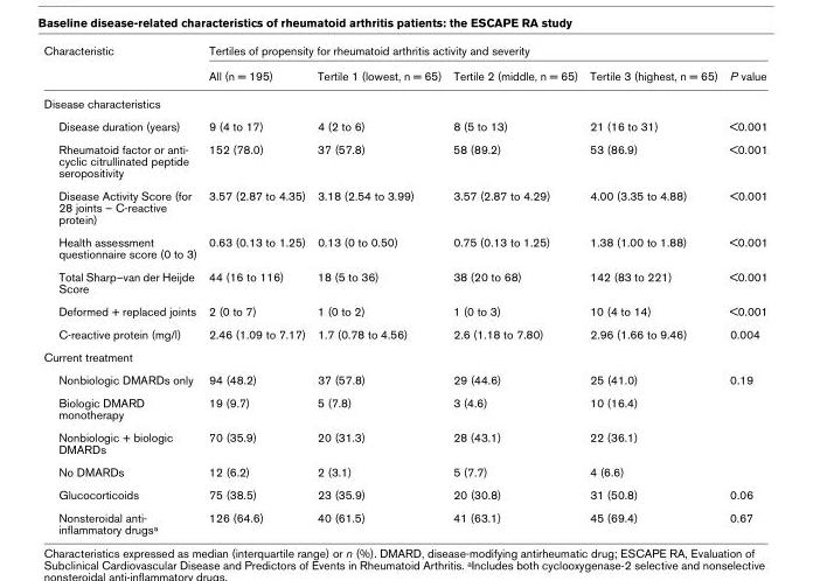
<table><thead><tr><td rowspan="2">Characteristic</td><td colspan="5">Tertiles of propensity for rheumatoid arthritis activity and severity</td></tr><tr><td>All (n = 195)</td><td>Tertile 1 (lowest, n = 65)</td><td>Tertile 2 (middle, n = 65)</td><td>Tertile 3 (highest, n = 65)</td><td>P value</td></tr></thead><tbody><tr><td colspan="6">Disease characteristics</td></tr><tr><td>Disease duration (years)</td><td>9 (4 to 17)</td><td>4 (2 to 6)</td><td>8 (5 to 13)</td><td>21 (16 to 31)</td><td>&lt;0.001</td></tr><tr><td>Rheumatoid factor or anti- cyclic citrullinated peptide seropositivity</td><td>152 (78.0)</td><td>37 (57.8)</td><td>58 (89.2)</td><td>53 (86.9)</td><td>&lt;0.001</td></tr><tr><td>Disease Activity Score (for 28 joints – C-reactive protein)</td><td>3.57 (2.87 to 4.35)</td><td>3.18 (2.54 to 3.99)</td><td>3.57 (2.87 to 4.29)</td><td>4.00 (3.35 to 4.88)</td><td>&lt;0.001</td></tr><tr><td>Health assessment questionnaire score (0 to 3)</td><td>0.63 (0.13 to 1.25)</td><td>0.13 (0 to 0.50)</td><td>0.75 (0.13 to 1.25)</td><td>1.38 (1.00 to 1.88)</td><td>&lt;0.001</td></tr><tr><td>Total Sharp–van der Heijde Score</td><td>44 (16 to 116)</td><td>18 (5 to 36)</td><td>38 (20 to 68)</td><td>142 (83 to 221)</td><td>&lt;0.001</td></tr><tr><td>Deformed + replaced joints</td><td>2 (0 to 7)</td><td>1 (0 to 2)</td><td>1 (0 to 3)</td><td>10 (4 to 14)</td><td>&lt;0.001</td></tr><tr><td>C-reactive protein (mg/l)</td><td>2.46 (1.09 to 7.17)</td><td>1.7 (0.78 to 4.56)</td><td>2.6 (1.18 to 7.80)</td><td>2.96 (1.66 to 9.46)</td><td>0.004</td></tr><tr><td colspan="6">Current treatment</td></tr><tr><td>Nonbiologic DMARDs only</td><td>94 (48.2)</td><td>37 (57.8)</td><td>29 (44.6)</td><td>25 (41.0)</td><td>0.19</td></tr><tr><td>Biologic DMARD monotherapy</td><td>19 (9.7)</td><td>5 (7.8)</td><td>3 (4.6)</td><td>10 (16.4)</td><td></td></tr><tr><td>Nonbiologic + biologic DMARDs</td><td>70 (35.9)</td><td>20 (31.3)</td><td>28 (43.1)</td><td>22 (36.1)</td><td></td></tr><tr><td>No DMARDs</td><td>12 (6.2)</td><td>2 (3.1)</td><td>5 (7.7)</td><td>4 (6.6)</td><td></td></tr><tr><td>Glucocorticoids</td><td>75 (38.5)</td><td>23 (35.9)</td><td>20 (30.8)</td><td>31 (50.8)</td><td>0.06</td></tr><tr><td>Nonsteroidal anti- inflammatory drugs<sup>a</sup></td><td>126 (64.6)</td><td>40 (61.5)</td><td>41 (63.1)</td><td>45 (69.4)</td><td>0.67</td></tr></tbody></table>